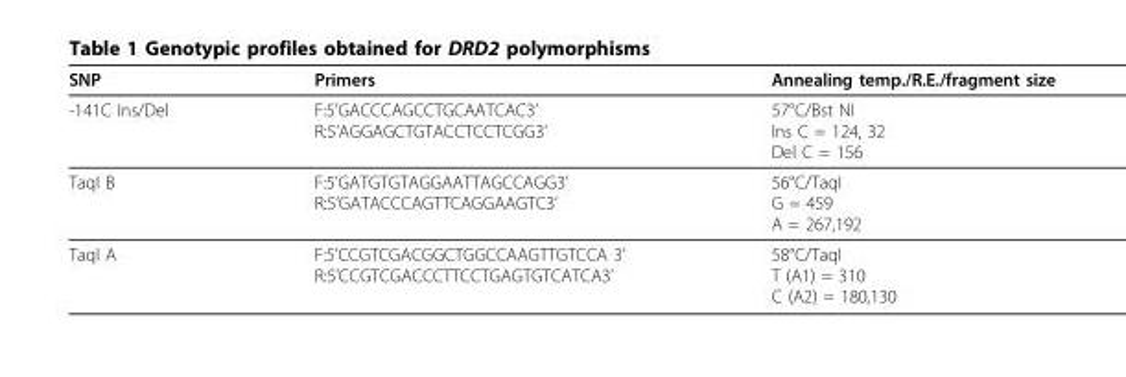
<table><thead><tr><td>SNP</td><td>Primers</td><td>Annealing temp./R.E./fragment size</td></tr></thead><tbody><tr><td>-141C Ins/Del</td><td>F:5’GACCCAGCCTGCAATCAC3’ R:5’AGGAGCTGTACCTCCTCGG3’</td><td>57°C/Bst NI Ins C = 124, 32 Del C = 156</td></tr><tr><td>TaqI B</td><td>F:5’GATGTGTAGGAATTAGCCAGG3’ R:5’GATACCCAGTTCAGGAAGTC3’</td><td>56°C/TaqI G = 459 A = 267,192</td></tr><tr><td>TaqI A</td><td>F:5’CCGTCGACGGCTGGCCAAGTTGTCCA 3’ R:5’CCGTCGACCCTTCCTGAGTGTCATCA3’</td><td>58°C/TaqI T (A1) = 310 C (A2) = 180,130</td></tr></tbody></table>